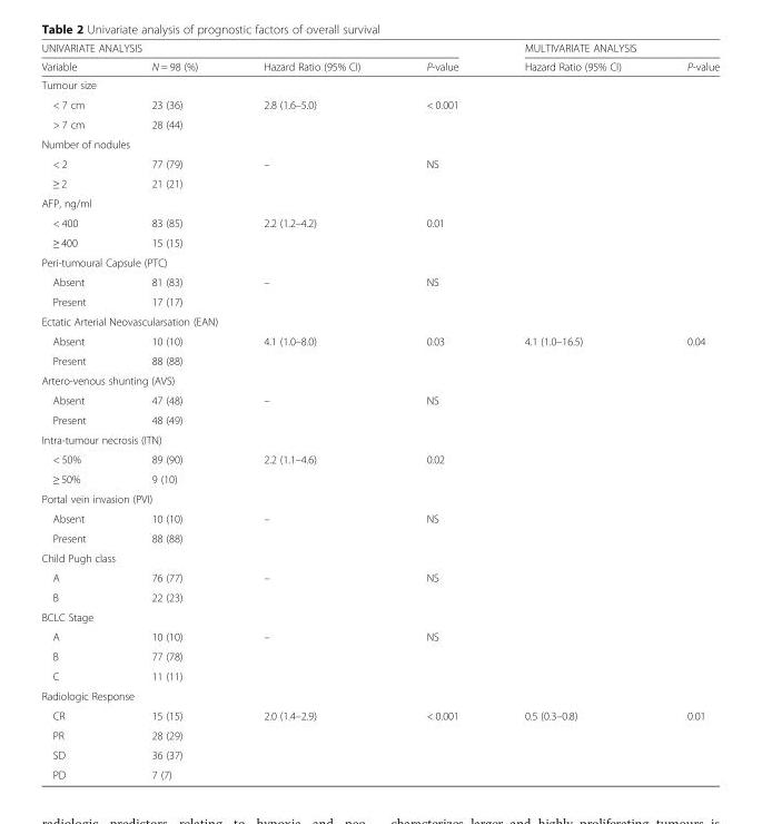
<table><thead><tr><td colspan="4">UNIVARIATE ANALYSIS</td><td colspan="2">MULTIVARIATE ANALYSIS</td></tr><tr><td>Variable</td><td>N = 98 (%)</td><td>Hazard Ratio (95% CI)</td><td>P-value</td><td>Hazard Ratio (95% CI)</td><td>P-value</td></tr></thead><tbody><tr><td colspan="6">Tumour size</td></tr><tr><td>&lt; 7 cm</td><td>23 (36)</td><td>2.8 (1.6–5.0)</td><td>&lt; 0.001</td><td></td><td></td></tr><tr><td>&gt; 7 cm</td><td>28 (44)</td><td></td><td></td><td></td><td></td></tr><tr><td colspan="6">Number of nodules</td></tr><tr><td>&lt; 2</td><td>77 (79)</td><td>–</td><td>NS</td><td></td><td></td></tr><tr><td>≥ 2</td><td>21 (21)</td><td></td><td></td><td></td><td></td></tr><tr><td colspan="6">AFP, ng/ml</td></tr><tr><td>&lt; 400</td><td>83 (85)</td><td>2.2 (1.2–4.2)</td><td>0.01</td><td></td><td></td></tr><tr><td>≥ 400</td><td>15 (15)</td><td></td><td></td><td></td><td></td></tr><tr><td colspan="6">Peri-tumoural Capsule (PTC)</td></tr><tr><td>Absent</td><td>81 (83)</td><td>–</td><td>NS</td><td></td><td></td></tr><tr><td>Present</td><td>17 (17)</td><td></td><td></td><td></td><td></td></tr><tr><td colspan="6">Ectatic Arterial Neovascularsation (EAN)</td></tr><tr><td>Absent</td><td>10 (10)</td><td>4.1 (1.0–8.0)</td><td>0.03</td><td>4.1 (1.0–16.5)</td><td>0.04</td></tr><tr><td>Present</td><td>88 (88)</td><td></td><td></td><td></td><td></td></tr><tr><td colspan="6">Artero-venous shunting (AVS)</td></tr><tr><td>Absent</td><td>47 (48)</td><td>–</td><td>NS</td><td></td><td></td></tr><tr><td>Present</td><td>48 (49)</td><td></td><td></td><td></td><td></td></tr><tr><td colspan="6">Intra-tumour necrosis (ITN)</td></tr><tr><td>&lt; 50%</td><td>89 (90)</td><td>2.2 (1.1–4.6)</td><td>0.02</td><td></td><td></td></tr><tr><td>≥ 50%</td><td>9 (10)</td><td></td><td></td><td></td><td></td></tr><tr><td colspan="6">Portal vein invasion (PVI)</td></tr><tr><td>Absent</td><td>10 (10)</td><td>–</td><td>NS</td><td></td><td></td></tr><tr><td>Present</td><td>88 (88)</td><td></td><td></td><td></td><td></td></tr><tr><td colspan="6">Child Pugh class</td></tr><tr><td>A</td><td>76 (77)</td><td>–</td><td>NS</td><td></td><td></td></tr><tr><td>B</td><td>22 (23)</td><td></td><td></td><td></td><td></td></tr><tr><td colspan="6">BCLC Stage</td></tr><tr><td>A</td><td>10 (10)</td><td>–</td><td>NS</td><td></td><td></td></tr><tr><td>B</td><td>77 (78)</td><td></td><td></td><td></td><td></td></tr><tr><td>C</td><td>11 (11)</td><td></td><td></td><td></td><td></td></tr><tr><td colspan="6">Radiologic Response</td></tr><tr><td>CR</td><td>15 (15)</td><td>2.0 (1.4–2.9)</td><td>&lt; 0.001</td><td>0.5 (0.3–0.8)</td><td>0.01</td></tr><tr><td>PR</td><td>28 (29)</td><td></td><td></td><td></td><td></td></tr><tr><td>SD</td><td>36 (37)</td><td></td><td></td><td></td><td></td></tr><tr><td>PD</td><td>7 (7)</td><td></td><td></td><td></td><td></td></tr></tbody></table>